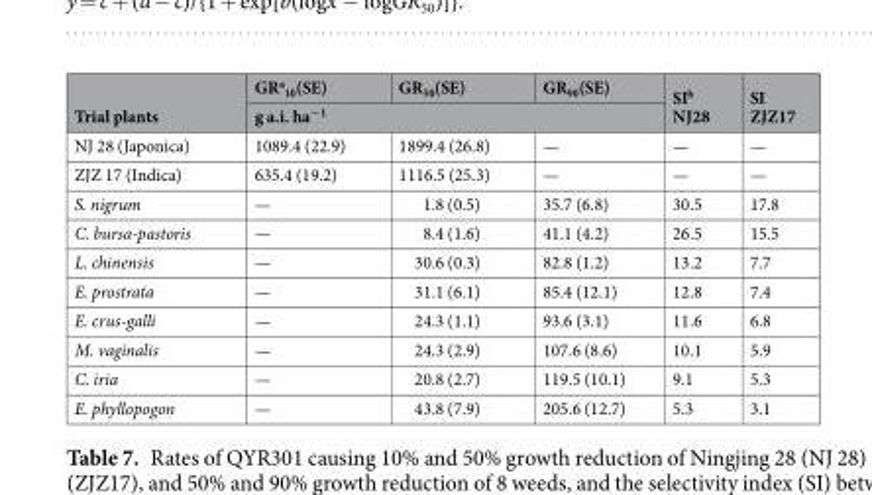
<table><thead><tr><td rowspan="2">Trial plants</td><td>GR<sup>a</sup> <sub>10</sub>(SE)</td><td>GR<sub>50</sub>(SE)</td><td>GR<sub>90</sub>(SE)</td><td rowspan="2">SI<sup>b</sup> NJ28</td><td rowspan="2">SI ZJZ17</td></tr><tr><td colspan="3">g a.i. ha<sup>−1</sup></td></tr></thead><tbody><tr><td>NJ 28 (Japonica)</td><td>1089.4 (22.9)</td><td>1899.4 (26.8)</td><td>—</td><td>—</td><td>—</td></tr><tr><td>ZJZ 17 (Indica)</td><td>635.4 (19.2)</td><td>1116.5 (25.3)</td><td>—</td><td>—</td><td>—</td></tr><tr><td>S. nigrum</td><td>—</td><td>1.8 (0.5)</td><td>35.7 (6.8)</td><td>30.5</td><td>17.8</td></tr><tr><td>C. bursa-pastoris</td><td>—</td><td>8.4 (1.6)</td><td>41.1 (4.2)</td><td>26.5</td><td>15.5</td></tr><tr><td>L. chinensis</td><td>—</td><td>30.6 (0.3)</td><td>82.8 (1.2)</td><td>13.2</td><td>7.7</td></tr><tr><td>E. prostrata</td><td>—</td><td>31.1 (6.1)</td><td>85.4 (12.1)</td><td>12.8</td><td>7.4</td></tr><tr><td>E. crus-galli</td><td>—</td><td>24.3 (1.1)</td><td>93.6 (3.1)</td><td>11.6</td><td>6.8</td></tr><tr><td>M. vaginalis</td><td>—</td><td>24.3 (2.9)</td><td>107.6 (8.6)</td><td>10.1</td><td>5.9</td></tr><tr><td>C. iria</td><td>—</td><td>20.8 (2.7)</td><td>119.5 (10.1)</td><td>9.1</td><td>5.3</td></tr><tr><td>E. phyllopogon</td><td>—</td><td>43.8 (7.9)</td><td>205.6 (12.7)</td><td>5.3</td><td>3.1</td></tr></tbody></table>